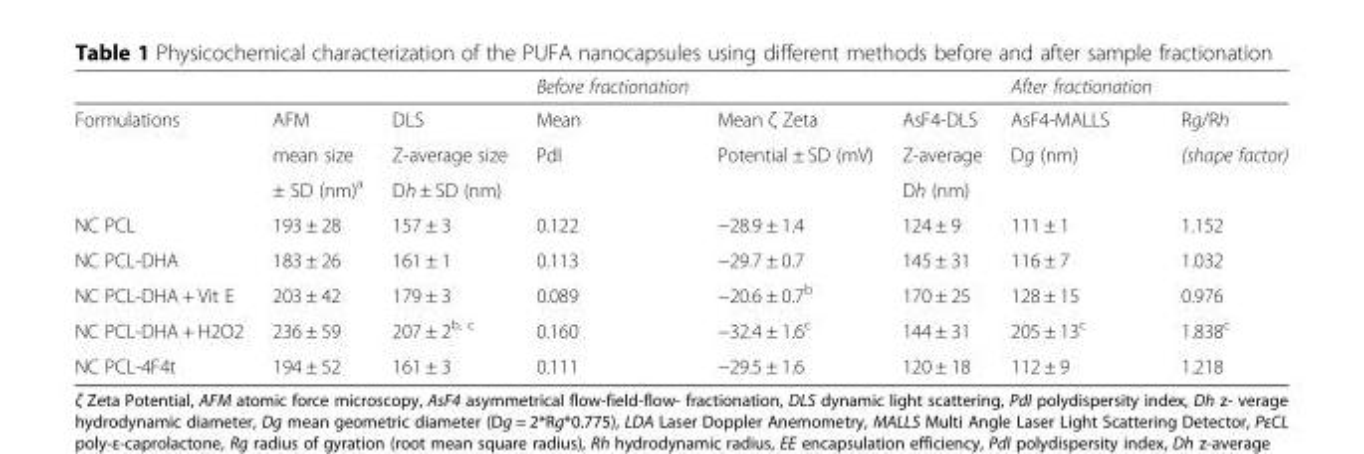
<table><thead><tr><td></td><td></td><td></td><td>Before fractionation</td><td></td><td></td><td>After fractionation</td><td></td></tr></thead><tbody><tr><td rowspan="3">Formulations</td><td>AFM</td><td>DLS</td><td>Mean</td><td>Mean ζ Zeta</td><td>AsF4-DLS</td><td>AsF4-MALLS</td><td>Rg/Rh</td></tr><tr><td>mean size</td><td>Z-average size</td><td>PdI</td><td>Potential ± SD (mV)</td><td>Z-average</td><td>Dg (nm)</td><td>(shape factor)</td></tr><tr><td>± SD (nm)<sup>a</sup></td><td>Dh ± SD (nm)</td><td></td><td></td><td>Dh (nm)</td><td></td><td></td></tr><tr><td>NC PCL</td><td>193 ± 28</td><td>157 ± 3</td><td>0.122</td><td>−28.9 ± 1.4</td><td>124 ± 9</td><td>111 ± 1</td><td>1.152</td></tr><tr><td>NC PCL-DHA</td><td>183 ± 26</td><td>161 ± 1</td><td>0.113</td><td>−29.7 ± 0.7</td><td>145 ± 31</td><td>116 ± 7</td><td>1.032</td></tr><tr><td>NC PCL-DHA + Vit E</td><td>203 ± 42</td><td>179 ± 3</td><td>0.089</td><td>−20.6 ± 0.7<sup>b</sup></td><td>170 ± 25</td><td>128 ± 15</td><td>0.976</td></tr><tr><td>NC PCL-DHA + H2O2</td><td>236 ± 59</td><td>207 ± 2<sup>b, c</sup></td><td>0.160</td><td>−32.4 ± 1.6<sup>c</sup></td><td>144 ± 31</td><td>205 ± 13<sup>c</sup></td><td>1.838<sup>c</sup></td></tr><tr><td>NC PCL-4F4t</td><td>194 ± 52</td><td>161 ± 3</td><td>0.111</td><td>−29.5 ± 1.6</td><td>120 ± 18</td><td>112 ± 9</td><td>1.218</td></tr></tbody></table>